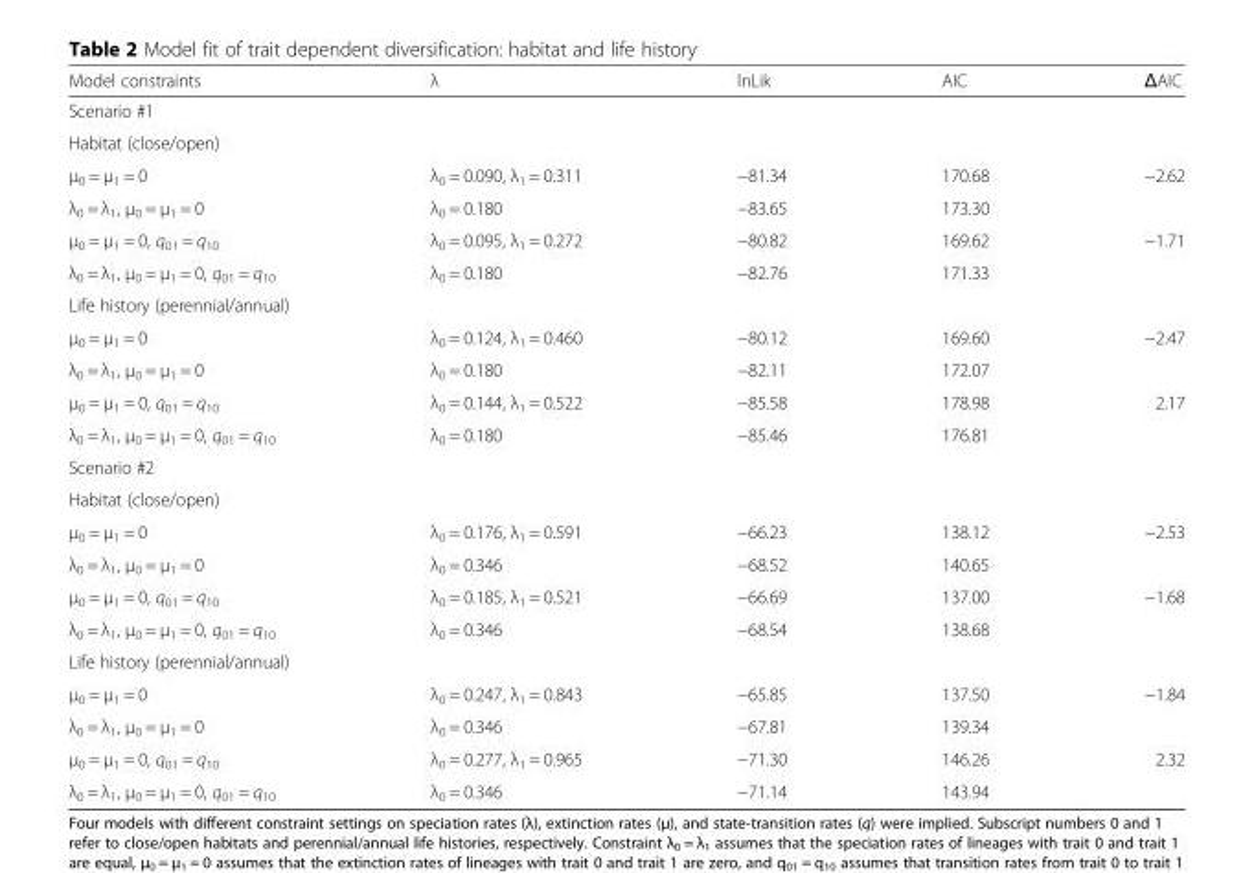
<table><thead><tr><td>Model constraints</td><td>λ</td><td>lnLik</td><td>AIC</td><td>ΔAIC</td></tr></thead><tbody><tr><td colspan="5">Scenario #1</td></tr><tr><td colspan="5">Habitat (close/open)</td></tr><tr><td>μ<sub>0</sub> = μ<sub>1</sub> = 0</td><td>λ<sub>0</sub> = 0.090, λ<sub>1</sub> = 0.311</td><td>−81.34</td><td>170.68</td><td rowspan="2">−2.62</td></tr><tr><td>λ<sub>0</sub> = λ<sub>1</sub>, μ<sub>0</sub> = μ<sub>1</sub> = 0</td><td>λ<sub>0</sub> = 0.180</td><td>−83.65</td><td>173.30</td></tr><tr><td>μ<sub>0</sub> = μ<sub>1</sub> = 0, q<sub>01</sub> = q<sub>10</sub></td><td>λ<sub>0</sub> = 0.095, λ<sub>1</sub> = 0.272</td><td>−80.82</td><td>169.62</td><td rowspan="2">−1.71</td></tr><tr><td>λ<sub>0</sub> = λ<sub>1</sub>, μ<sub>0</sub> = μ<sub>1</sub> = 0, q<sub>01</sub> = q<sub>10</sub></td><td>λ<sub>0</sub> = 0.180</td><td>−82.76</td><td>171.33</td></tr><tr><td colspan="5">Life history (perennial/annual)</td></tr><tr><td>μ<sub>0</sub> = μ<sub>1</sub> = 0</td><td>λ<sub>0</sub> = 0.124, λ<sub>1</sub> = 0.460</td><td>−80.12</td><td>169.60</td><td rowspan="2">−2.47</td></tr><tr><td>λ<sub>0</sub> = λ<sub>1</sub>, μ<sub>0</sub> = μ<sub>1</sub> = 0</td><td>λ<sub>0</sub> = 0.180</td><td>−82.11</td><td>172.07</td></tr><tr><td>μ<sub>0</sub> = μ<sub>1</sub> = 0, q<sub>01</sub> = q<sub>10</sub></td><td>λ<sub>0</sub> = 0.144, λ<sub>1</sub> = 0.522</td><td>−85.58</td><td>178.98</td><td rowspan="2">2.17</td></tr><tr><td>λ<sub>0</sub> = λ<sub>1</sub>, μ<sub>0</sub> = μ<sub>1</sub> = 0, q<sub>01</sub> = q<sub>10</sub></td><td>λ<sub>0</sub> = 0.180</td><td>−85.46</td><td>176.81</td></tr><tr><td colspan="5">Scenario #2</td></tr><tr><td colspan="5">Habitat (close/open)</td></tr><tr><td>μ<sub>0</sub> = μ<sub>1</sub> = 0</td><td>λ<sub>0</sub> = 0.176, λ<sub>1</sub> = 0.591</td><td>−66.23</td><td>138.12</td><td rowspan="2">−2.53</td></tr><tr><td>λ<sub>0</sub> = λ<sub>1</sub>, μ<sub>0</sub> = μ<sub>1</sub> = 0</td><td>λ<sub>0</sub> = 0.346</td><td>−68.52</td><td>140.65</td></tr><tr><td>μ<sub>0</sub> = μ<sub>1</sub> = 0, q<sub>01</sub> = q<sub>10</sub></td><td>λ<sub>0</sub> = 0.185, λ<sub>1</sub> = 0.521</td><td>−66.69</td><td>137.00</td><td rowspan="2">−1.68</td></tr><tr><td>λ<sub>0</sub> = λ<sub>1</sub>, μ<sub>0</sub> = μ<sub>1</sub> = 0, q<sub>01</sub> = q<sub>10</sub></td><td>λ<sub>0</sub> = 0.346</td><td>−68.54</td><td>138.68</td></tr><tr><td colspan="5">Life history (perennial/annual)</td></tr><tr><td>μ<sub>0</sub> = μ<sub>1</sub> = 0</td><td>λ<sub>0</sub> = 0.247, λ<sub>1</sub> = 0.843</td><td>−65.85</td><td>137.50</td><td rowspan="2">−1.84</td></tr><tr><td>λ<sub>0</sub> = λ<sub>1</sub>, μ<sub>0</sub> = μ<sub>1</sub> = 0</td><td>λ<sub>0</sub> = 0.346</td><td>−67.81</td><td>139.34</td></tr><tr><td>μ<sub>0</sub> = μ<sub>1</sub> = 0, q<sub>01</sub> = q<sub>10</sub></td><td>λ<sub>0</sub> = 0.277, λ<sub>1</sub> = 0.965</td><td>−71.30</td><td>146.26</td><td rowspan="2">2.32</td></tr><tr><td>λ<sub>0</sub> = λ<sub>1</sub>, μ<sub>0</sub> = μ<sub>1</sub> = 0, q<sub>01</sub> = q<sub>10</sub></td><td>λ<sub>0</sub> = 0.346</td><td>−71.14</td><td>143.94</td></tr></tbody></table>